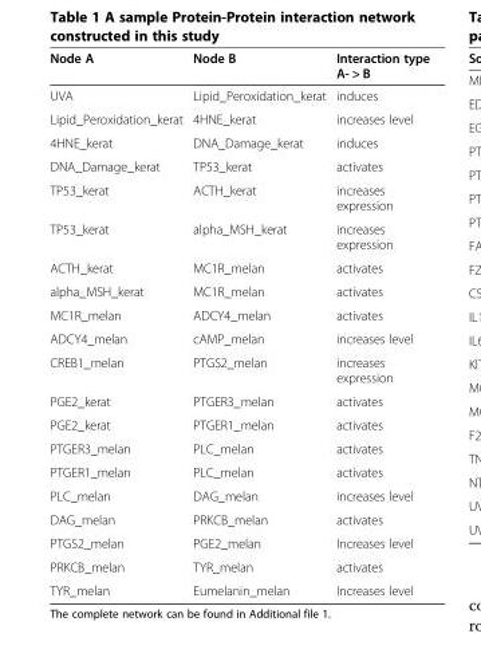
<table><thead><tr><td>Node A</td><td>Node B</td><td>Interaction type A- &gt; B</td></tr></thead><tbody><tr><td>UVA</td><td>Lipid_Peroxidation_kerat</td><td>induces</td></tr><tr><td>Lipid_Peroxidation_kerat</td><td>4HNE_kerat</td><td>increases level</td></tr><tr><td>4HNE_kerat</td><td>DNA_Damage_kerat</td><td>induces</td></tr><tr><td>DNA_Damage_kerat</td><td>TP53_kerat</td><td>activates</td></tr><tr><td>TP53_kerat</td><td>ACTH_kerat</td><td>increases expression</td></tr><tr><td>TP53_kerat</td><td>alpha_MSH_kerat</td><td>increases expression</td></tr><tr><td>ACTH_kerat</td><td>MC1R_melan</td><td>activates</td></tr><tr><td>alpha_MSH_kerat</td><td>MC1R_melan</td><td>activates</td></tr><tr><td>MC1R_melan</td><td>ADCY4_melan</td><td>activates</td></tr><tr><td>ADCY4_melan</td><td>cAMP_melan</td><td>increases level</td></tr><tr><td>CREB1_melan</td><td>PTGS2_melan</td><td>increases expression</td></tr><tr><td>PGE2_kerat</td><td>PTGER3_melan</td><td>activates</td></tr><tr><td>PGE2_kerat</td><td>PTGER1_melan</td><td>activates</td></tr><tr><td>PTGER3_melan</td><td>PLC_melan</td><td>activates</td></tr><tr><td>PTGER1_melan</td><td>PLC_melan</td><td>activates</td></tr><tr><td>PLC_melan</td><td>DAG_melan</td><td>increases level</td></tr><tr><td>DAG_melan</td><td>PRKCB_melan</td><td>activates</td></tr><tr><td>PTGS2_melan</td><td>PGE2_melan</td><td>Increases level</td></tr><tr><td>PRKCB_melan</td><td>TYR_melan</td><td>activates</td></tr><tr><td>TYR_melan</td><td>Eumelanin_melan</td><td>Increases level</td></tr></tbody></table>